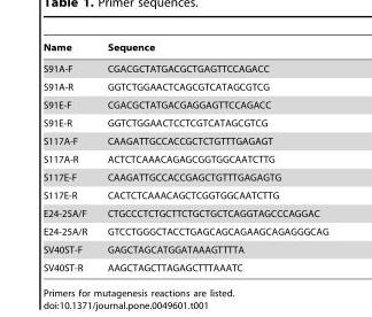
<table><thead><tr><td>Name</td><td>Sequence</td></tr></thead><tbody><tr><td>S91A-F</td><td>CGACGCTATGACGCTGAGTTCCAGACC</td></tr><tr><td>S91A-R</td><td>GGTCTGGAACTCAGCGTCATAGCGTCG</td></tr><tr><td>S91E-F</td><td>CGACGCTATGACGAGGAGTTCCAGACC</td></tr><tr><td>S91E-R</td><td>GGTCTGGAACTCCTCGTCATAGCGTCG</td></tr><tr><td>S117A-F</td><td>CAAGATTGCCACCGCTCTGTTTGAGAGT</td></tr><tr><td>S117A-R</td><td>ACTCTCAAACAGAGCGGTGGCAATCTTG</td></tr><tr><td>S117E-F</td><td>CAAGATTGCCACCGAGCTGTTTGAGAGTG</td></tr><tr><td>S117E-R</td><td>CACTCTCAAACAGCTCGGTGGCAATCTTG</td></tr><tr><td>E24-25A/F</td><td>CTGCCCTCTGCTTCTGCTGCTCAGGTAGCCCAGGAC</td></tr><tr><td>E24-25A/R</td><td>GTCCTGGGCTACCTGAGCAGCAGAAGCAGAGGGCAG</td></tr><tr><td>SV40ST-F</td><td>GAGCTAGCATGGATAAAGTTTTA</td></tr><tr><td>SV40ST-R</td><td>AAGCTAGCTTAGAGCTTTAAATC</td></tr></tbody></table>